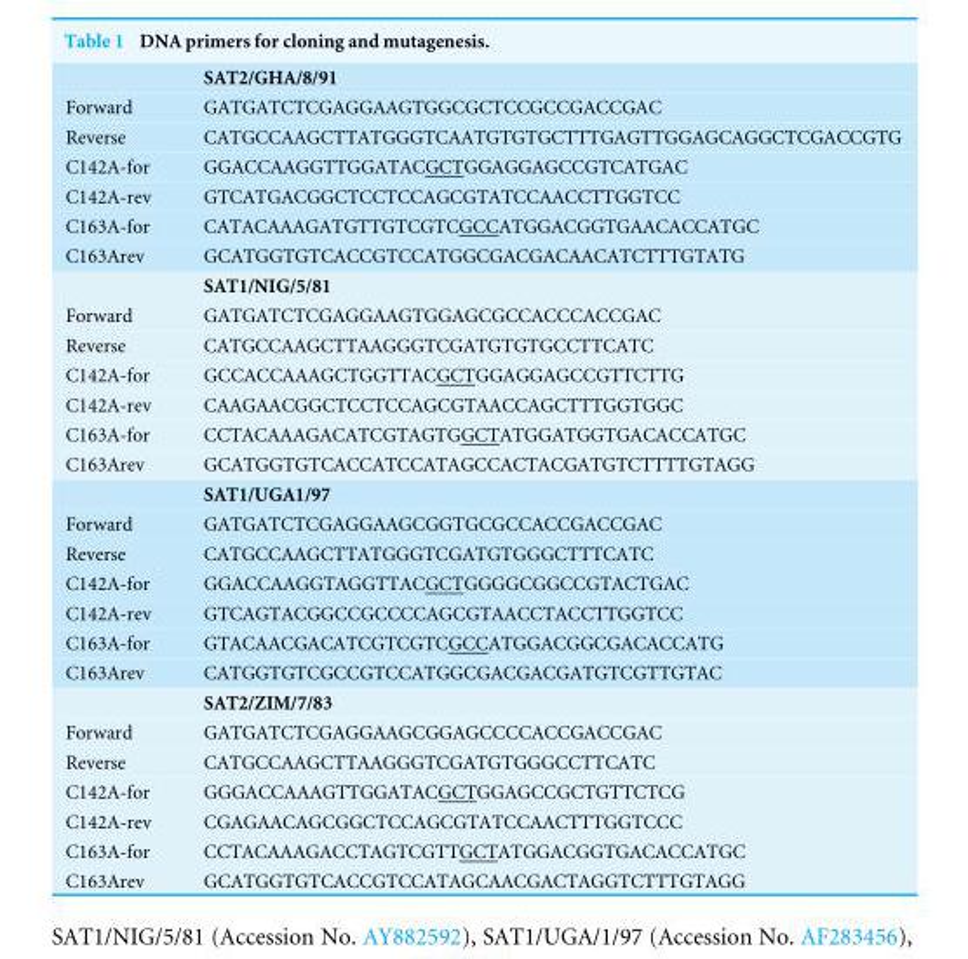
<table><thead><tr><td></td><td>SAT2/GHA/8/91</td></tr></thead><tbody><tr><td>Forward</td><td>GATGATCTCGAGGAAGTGGCGCTCCGCCGACCGAC</td></tr><tr><td>Reverse</td><td>CATGCCAAGCTTATGGGTCAATGTGTGCTTTGAGTTGGAGCAGGCTCGACCGTG</td></tr><tr><td>C142A-for</td><td>GGACCAAGGTTGGATACGCTGGAGGAGCCGTCATGAC</td></tr><tr><td>C142A-rev</td><td>GTCATGACGGCTCCTCCAGCGTATCCAACCTTGGTCC</td></tr><tr><td>C163A-for</td><td>CATACAAAGATGTTGTCGTCGCCATGGACGGTGAACACCATGC</td></tr><tr><td rowspan="2">C163Arev</td><td>GCATGGTGTCACCGTCCATGGCGACGACAACATCTTTGTATG</td></tr><tr><td>SAT1/NIG/5/81</td></tr><tr><td>Forward</td><td>GATGATCTCGAGGAAGTGGAGCGCCACCCACCGAC</td></tr><tr><td>Reverse</td><td>CATGCCAAGCTTAAGGGTCGATGTGTGCCTTCATC</td></tr><tr><td>C142A-for</td><td>GCCACCAAAGCTGGTTACGCTGGAGGAGCCGTTCTTG</td></tr><tr><td>C142A-rev</td><td>CAAGAACGGCTCCTCCAGCGTAACCAGCTTTGGTGGC</td></tr><tr><td>C163A-for</td><td>CCTACAAAGACATCGTAGTGGCTATGGATGGTGACACCATGC</td></tr><tr><td rowspan="2">C163Arev</td><td>GCATGGTGTCACCATCCATAGCCACTACGATGTCTTTTGTAGG</td></tr><tr><td>SAT1/UGA1/97</td></tr><tr><td>Forward</td><td>GATGATCTCGAGGAAGCGGTGCGCCACCGACCGAC</td></tr><tr><td>Reverse</td><td>CATGCCAAGCTTATGGGTCGATGTGGGCTTTCATC</td></tr><tr><td>C142A-for</td><td>GGACCAAGGTAGGTTACGCTGGGGCGGCCGTACTGAC</td></tr><tr><td>C142A-rev</td><td>GTCAGTACGGCCGCCCCAGCGTAACCTACCTTGGTCC</td></tr><tr><td>C163A-for</td><td>GTACAACGACATCGTCGTCGCCATGGACGGCGACACCATG</td></tr><tr><td rowspan="2">C163Arev</td><td>CATGGTGTCGCCGTCCATGGCGACGACGATGTCGTTGTAC</td></tr><tr><td>SAT2/ZIM/7/83</td></tr><tr><td>Forward</td><td>GATGATCTCGAGGAAGCGGAGCCCCACCGACCGAC</td></tr><tr><td>Reverse</td><td>CATGCCAAGCTTAAGGGTCGATGTGGGCCTTCATC</td></tr><tr><td>C142A-for</td><td>GGGACCAAAGTTGGATACGCTGGAGCCGCTGTTCTCG</td></tr><tr><td>C142A-rev</td><td>CGAGAACAGCGGCTCCAGCGTATCCAACTTTGGTCCC</td></tr><tr><td>C163A-for</td><td>CCTACAAAGACCTAGTCGTTGCTATGGACGGTGACACCATGC</td></tr><tr><td>C163Arev</td><td>GCATGGTGTCACCGTCCATAGCAACGACTAGGTCTTTGTAGG</td></tr></tbody></table>